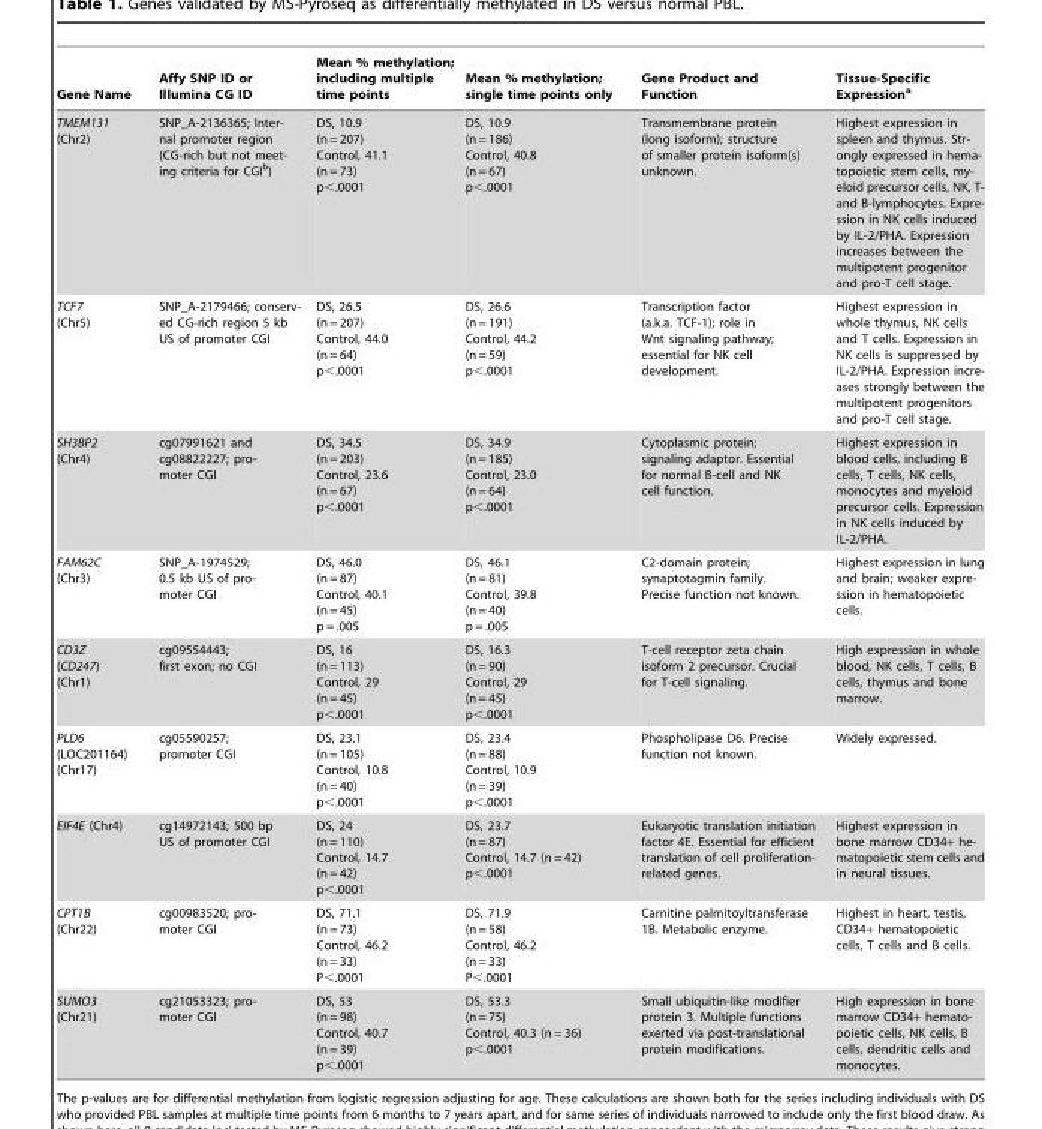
<table><thead><tr><td>Gene Name</td><td>Affy SNP ID or Illumina CG ID</td><td>Mean % methylation; including multiple time points</td><td>Mean % methylation; single time points only</td><td>Gene Product and Function</td><td>Tissue-Specific Expression<sup>a</sup></td></tr></thead><tbody><tr><td>TMEM131 (Chr2)</td><td>SNP_A-2136365; Inter- nal promoter region (CG-rich but not meet- ing criteria for CGIb)</td><td>DS, 10.9 (n = 207) Control, 41.1 (n = 73) p&lt;.0001</td><td>DS, 10.9 (n = 186) Control, 40.8 (n = 67) p&lt;.0001</td><td>Transmembrane protein (long isoform); structure of smaller protein isoform(s) unknown.</td><td>Highest expression in spleen and thymus. Str- ongly expressed in hema- topoietic stem cells, my- eloid precursor cells, NK, T- and B-lymphocytes. Expre- ssion in NK cells induced by IL-2/PHA. Expression increases between the multipotent progenitor and pro-T cell stage.</td></tr><tr><td>TCF7 (Chr5)</td><td>SNP_A-2179466; conserv- ed CG-rich region 5 kb US of promoter CGI</td><td>DS, 26.5 (n = 207) Control, 44.0 (n = 64) p&lt;.0001</td><td>DS, 26.6 (n = 191) Control, 44.2 (n = 59) p&lt;.0001</td><td>Transcription factor (a.k.a. TCF-1); role in Wnt signaling pathway; essential for NK cell development.</td><td>Highest expression in whole thymus, NK cells and T cells. Expression in NK cells is suppressed by IL-2/PHA. Expression incre- ases strongly between the multipotent progenitors and pro-T cell stage.</td></tr><tr><td>SH3BP2 (Chr4)</td><td>cg07991621 and cg08822227; pro- moter CGI</td><td>DS, 34.5 (n = 203) Control, 23.6 (n = 67) p&lt;.0001</td><td>DS, 34.9 (n = 185) Control, 23.0 (n = 64) p&lt;.0001</td><td>Cytoplasmic protein; signaling adaptor. Essential for normal B-cell and NK cell function.</td><td>Highest expression in blood cells, including B cells, T cells, NK cells, monocytes and myeloid precursor cells. Expression in NK cells induced by IL-2/PHA.</td></tr><tr><td>FAM62C (Chr3)</td><td>SNP_A-1974529; 0.5 kb US of pro- moter CGI</td><td>DS, 46.0 (n = 87) Control, 40.1 (n = 45) p = .005</td><td>DS, 46.1 (n = 81) Control, 39.8 (n = 40) p = .005</td><td>C2-domain protein; synaptotagmin family. Precise function not known.</td><td>Highest expression in lung and brain; weaker expre- ssion in hematopoietic cells.</td></tr><tr><td>CD3Z (CD247) (Chr1)</td><td>cg09554443; first exon; no CGI</td><td>DS, 16 (n = 113) Control, 29 (n = 45) p&lt;.0001</td><td>DS, 16.3 (n = 90) Control, 29 (n = 45) p&lt;.0001</td><td>T-cell receptor zeta chain isoform 2 precursor. Crucial for T-cell signaling.</td><td>High expression in whole blood, NK cells, T cells, B cells, thymus and bone marrow.</td></tr><tr><td>PLD6 (LOC201164) (Chr17)</td><td>cg05590257; promoter CGI</td><td>DS, 23.1 (n = 105) Control, 10.8 (n = 40) p&lt;.0001</td><td>DS, 23.4 (n = 88) Control, 10.9 (n = 39) p&lt;.0001</td><td>Phospholipase D6. Precise function not known.</td><td>Widely expressed.</td></tr><tr><td>EIF4E (Chr4)</td><td>cg14972143; 500 bp US of promoter CGI</td><td>DS, 24 (n = 110) Control, 14.7 (n = 42) p&lt;.0001</td><td>DS, 23.7 (n = 87) Control, 14.7 (n = 42) p&lt;.0001</td><td>Eukaryotic translation initiation factor 4E. Essential for efficient translation of cell proliferation- related genes.</td><td>Highest expression in bone marrow CD34+ he- matopoietic stem cells and in neural tissues.</td></tr><tr><td>CPT1B (Chr22)</td><td>cg00983520; pro- moter CGI</td><td>DS, 71.1 (n = 73) Control, 46.2 (n = 33) P&lt;.0001</td><td>DS, 71.9 (n = 58) Control, 46.2 (n = 33) P&lt;.0001</td><td>Carnitine palmitoyltransferase 1B. Metabolic enzyme.</td><td>Highest in heart, testis, CD34+ hematopoietic cells, T cells and B cells.</td></tr><tr><td>SUMO3 (Chr21)</td><td>cg21053323; pro- moter CGI</td><td>DS, 53 (n = 98) Control, 40.7 (n = 39) p&lt;.0001</td><td>DS, 53.3 (n = 75) Control, 40.3 (n = 36) p&lt;.0001</td><td>Small ubiquitin-like modifier protein 3. Multiple functions exerted via post-translational protein modifications.</td><td>High expression in bone marrow CD34+ hemato- poietic cells, NK cells, B cells, dendritic cells and monocytes.</td></tr></tbody></table>